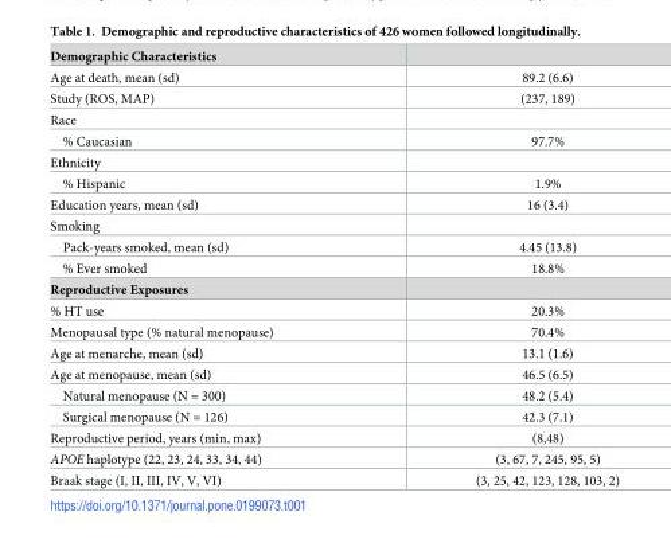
<table><tbody><tr><td colspan="2">Demographic Characteristics</td></tr><tr><td>Age at death, mean (sd)</td><td>89.2 (6.6)</td></tr><tr><td>Study (ROS, MAP)</td><td>(237, 189)</td></tr><tr><td colspan="2">Race</td></tr><tr><td>% Caucasian</td><td>97.7%</td></tr><tr><td colspan="2">Ethnicity</td></tr><tr><td>% Hispanic</td><td>1.9%</td></tr><tr><td>Education years, mean (sd)</td><td>16 (3.4)</td></tr><tr><td colspan="2">Smoking</td></tr><tr><td>Pack-years smoked, mean (sd)</td><td>4.45 (13.8)</td></tr><tr><td>% Ever smoked</td><td>18.8%</td></tr><tr><td colspan="2">Reproductive Exposures</td></tr><tr><td>% HT use</td><td>20.3%</td></tr><tr><td>Menopausal type (% natural menopause)</td><td>70.4%</td></tr><tr><td>Age at menarche, mean (sd)</td><td>13.1 (1.6)</td></tr><tr><td>Age at menopause, mean (sd)</td><td>46.5 (6.5)</td></tr><tr><td>Natural menopause (N = 300)</td><td>48.2 (5.4)</td></tr><tr><td>Surgical menopause (N = 126)</td><td>42.3 (7.1)</td></tr><tr><td>Reproductive period, years (min, max)</td><td>(8,48)</td></tr><tr><td>APOE haplotype (22, 23, 24, 33, 34, 44)</td><td>(3, 67, 7, 245, 95, 5)</td></tr><tr><td>Braak stage (I, II, III, IV, V, VI)</td><td>(3, 25, 42, 123, 128, 103, 2)</td></tr></tbody></table>